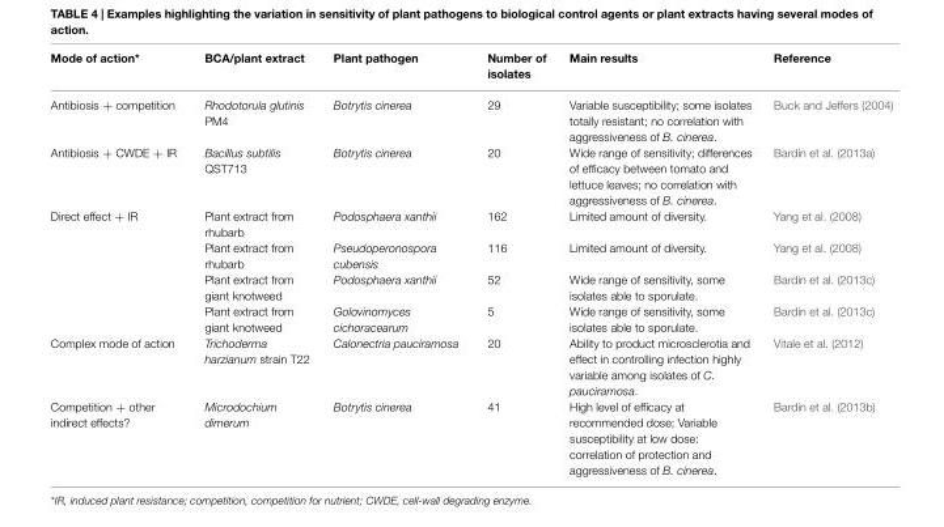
<table><thead><tr><td>Mode of action*</td><td>BCA/plant extract</td><td>Plant pathogen</td><td>Number of isolates</td><td>Main results</td><td>Reference</td></tr></thead><tbody><tr><td>Antibiosis + competition</td><td>Rhodotorula glutinis PM4</td><td>Botrytis cinerea</td><td>29</td><td>Variable susceptibility; some isolates totally resistant; no correlation with aggressiveness of B. cinerea.</td><td>Buck and Jeffers (2004)</td></tr><tr><td>Antibiosis + CWDE + IR</td><td>Bacillus subtilis QST713</td><td>Botrytis cinerea</td><td>20</td><td>Wide range of sensitivity; differences of efficacy between tomato and lettuce leaves; no correlation with aggressiveness of B. cinerea.</td><td>Bardin et al. (2013a)</td></tr><tr><td rowspan="4">Direct effect + IR</td><td>Plant extract from rhubarb</td><td>Podosphaera xanthii</td><td>162</td><td>Limited amount of diversity.</td><td>Yang et al. (2008)</td></tr><tr><td>Plant extract from rhubarb</td><td>Pseudoperonospora cubensis</td><td>116</td><td>Limited amount of diversity.</td><td>Yang et al. (2008)</td></tr><tr><td>Plant extract from giant knotweed</td><td>Podosphaera xanthii</td><td>52</td><td>Wide range of sensitivity, some isolates able to sporulate.</td><td>Bardin et al. (2013c)</td></tr><tr><td>Plant extract from giant knotweed</td><td>Golovinomyces cichoracearum</td><td>5</td><td>Wide range of sensitivity, some isolates able to sporulate.</td><td>Bardin et al. (2013c)</td></tr><tr><td>Complex mode of action</td><td>Trichoderma harzianum strain T22</td><td>Calonectria pauciramosa</td><td>20</td><td>Ability to product microsclerotia and effect in controlling infection highly variable among isolates of C. pauciramosa.</td><td>Vitale et al. (2012)</td></tr><tr><td>Competition + other indirect effects?</td><td>Microdochium dimerum</td><td>Botrytis cinerea</td><td>41</td><td>High level of efficacy at recommended dose; Variable susceptibility at low dose: correlation of protection and aggressiveness of B. cinerea.</td><td>Bardin et al. (2013b)</td></tr></tbody></table>